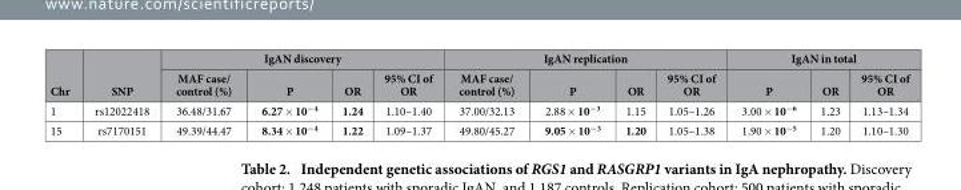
<table><thead><tr><td rowspan="2">Chr</td><td rowspan="2">SNP</td><td colspan="4">IgAN discovery</td><td colspan="4">IgAN replication</td><td colspan="3">IgAN in total</td></tr><tr><td>MAF case/ control (%)</td><td>P</td><td>OR</td><td>95% CI of OR</td><td>MAF case/ control (%)</td><td>P</td><td>OR</td><td>95% CI of OR</td><td>P</td><td>OR</td><td>95% CI of OR</td></tr></thead><tbody><tr><td>1</td><td>rs12022418</td><td>36.48/31.67</td><td>6.27 × 10<sup>−4</sup></td><td>1.24</td><td>1.10–1.40</td><td>37.00/32.13</td><td>2.88 × 10<sup>−3</sup></td><td>1.15</td><td>1.05–1.26</td><td>3.00 × 10<sup>−6</sup></td><td>1.23</td><td>1.13–1.34</td></tr><tr><td>15</td><td>rs7170151</td><td>49.39/44.47</td><td>8.34 × 10<sup>−4</sup></td><td>1.22</td><td>1.09–1.37</td><td>49.80/45.27</td><td>9.05 × 10<sup>−3</sup></td><td>1.20</td><td>1.05–1.38</td><td>1.90 × 10<sup>−5</sup></td><td>1.20</td><td>1.10–1.30</td></tr></tbody></table>